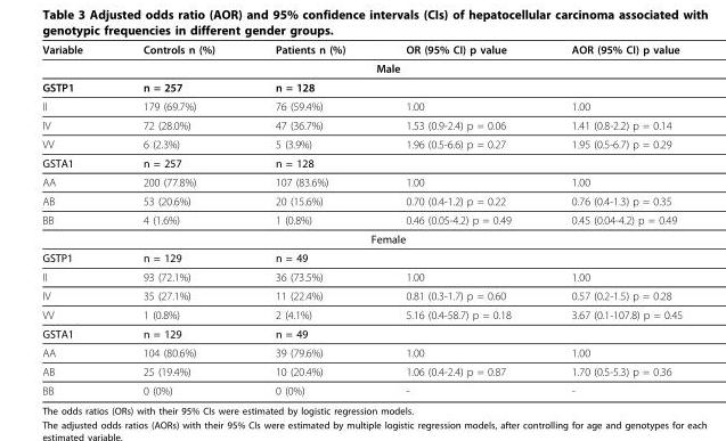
<table><thead><tr><td>Variable</td><td>Controls n (%)</td><td>Patients n (%)</td><td>OR (95% CI) p value</td><td>AOR (95% CI) p value</td></tr></thead><tbody><tr><td></td><td colspan="4">Male</td></tr><tr><td>GSTP1</td><td>n = 257</td><td>n = 128</td><td></td><td></td></tr><tr><td>II</td><td>179 (69.7%)</td><td>76 (59.4%)</td><td>1.00</td><td>1.00</td></tr><tr><td>IV</td><td>72 (28.0%)</td><td>47 (36.7%)</td><td>1.53 (0.9-2.4) p = 0.06</td><td>1.41 (0.8-2.2) p = 0.14</td></tr><tr><td>VV</td><td>6 (2.3%)</td><td>5 (3.9%)</td><td>1.96 (0.5-6.6) p = 0.27</td><td>1.95 (0.5-6.7) p = 0.29</td></tr><tr><td>GSTA1</td><td>n = 257</td><td>n = 128</td><td></td><td></td></tr><tr><td>AA</td><td>200 (77.8%)</td><td>107 (83.6%)</td><td>1.00</td><td>1.00</td></tr><tr><td>AB</td><td>53 (20.6%)</td><td>20 (15.6%)</td><td>0.70 (0.4-1.2) p = 0.22</td><td>0.76 (0.4-1.3) p = 0.35</td></tr><tr><td rowspan="2">BB</td><td>4 (1.6%)</td><td>1 (0.8%)</td><td>0.46 (0.05-4.2) p = 0.49</td><td>0.45 (0.04-4.2) p = 0.49</td></tr><tr><td colspan="4">Female</td></tr><tr><td>GSTP1</td><td>n = 129</td><td>n = 49</td><td></td><td></td></tr><tr><td>II</td><td>93 (72.1%)</td><td>36 (73.5%)</td><td>1.00</td><td>1.00</td></tr><tr><td>IV</td><td>35 (27.1%)</td><td>11 (22.4%)</td><td>0.81 (0.3-1.7) p = 0.60</td><td>0.57 (0.2-1.5) p = 0.28</td></tr><tr><td>VV</td><td>1 (0.8%)</td><td>2 (4.1%)</td><td>5.16 (0.4-58.7) p = 0.18</td><td>3.67 (0.1-107.8) p = 0.45</td></tr><tr><td>GSTA1</td><td>n = 129</td><td>n = 49</td><td></td><td></td></tr><tr><td>AA</td><td>104 (80.6%)</td><td>39 (79.6%)</td><td>1.00</td><td>1.00</td></tr><tr><td>AB</td><td>25 (19.4%)</td><td>10 (20.4%)</td><td>1.06 (0.4-2.4) p = 0.87</td><td>1.70 (0.5-5.3) p = 0.36</td></tr><tr><td>BB</td><td>0 (0%)</td><td>0 (0%)</td><td>-</td><td>-</td></tr></tbody></table>